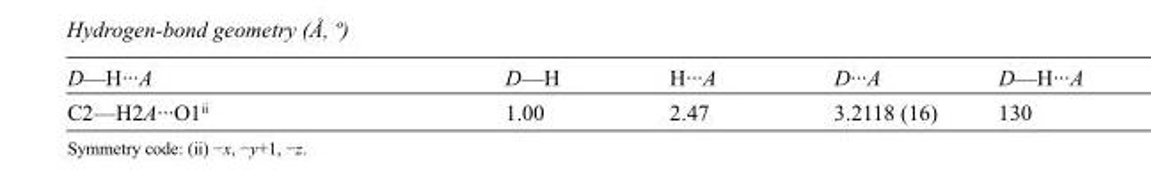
<table><tbody><tr><td>D—H···A</td><td>D—H</td><td>H···A</td><td>D···A</td><td>D—H···A</td></tr><tr><td>C2—H2A···O1<sup>ii</sup></td><td>1.00</td><td>2.47</td><td>3.2118 (16)</td><td>130</td></tr></tbody></table>